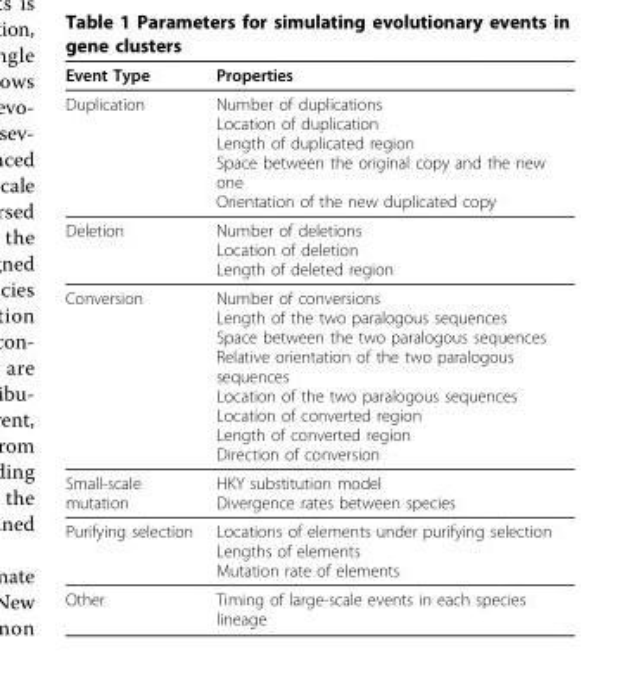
<table><thead><tr><td>Event Type</td><td>Properties</td></tr></thead><tbody><tr><td>Duplication</td><td>Number of duplications Location of duplication Length of duplicated region Space between the original copy and the new one Orientation of the new duplicated copy</td></tr><tr><td>Deletion</td><td>Number of deletions Location of deletion Length of deleted region</td></tr><tr><td>Conversion</td><td>Number of conversions Length of the two paralogous sequences Space between the two paralogous sequences Relative orientation of the two paralogous sequences Location of the two paralogous sequences Location of converted region Length of converted region Direction of conversion</td></tr><tr><td>Small-scale mutation</td><td>HKY substitution model Divergence rates between species</td></tr><tr><td>Purifying selection</td><td>Locations of elements under purifying selection Lengths of elements Mutation rate of elements</td></tr><tr><td>Other</td><td>Timing of large-scale events in each species lineage</td></tr></tbody></table>